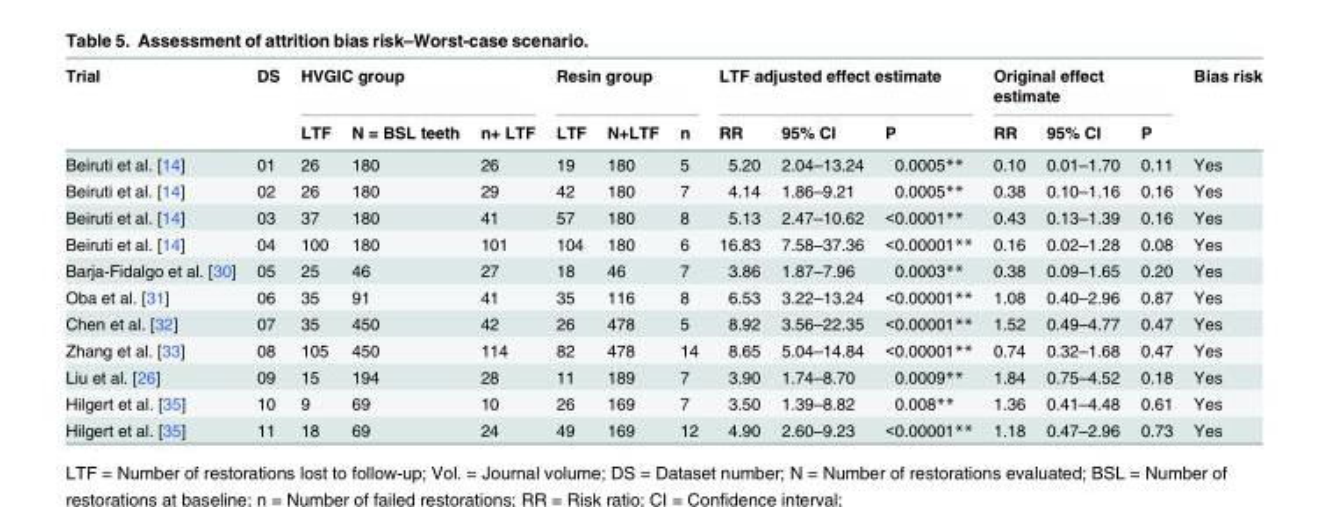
<table><thead><tr><td rowspan="2">Trial</td><td rowspan="2">DS</td><td colspan="3">HVGIC group</td><td colspan="3">Resin group</td><td colspan="3">LTF adjusted effect estimate</td><td colspan="3">Original effect estimate</td><td rowspan="2">Bias risk</td></tr><tr><td>LTF</td><td>N = BSL teeth</td><td>n+ LTF</td><td>LTF</td><td>N+LTF</td><td>n</td><td>RR</td><td>95% CI</td><td>P</td><td>RR</td><td>95% CI</td><td>P</td></tr></thead><tbody><tr><td>Beiruti et al. [14]</td><td>01</td><td>26</td><td>180</td><td>26</td><td>19</td><td>180</td><td>5</td><td>5.20</td><td>2.04–13.24</td><td>0.0005**</td><td>0.10</td><td>0.01–1.70</td><td>0.11</td><td>Yes</td></tr><tr><td>Beiruti et al. [14]</td><td>02</td><td>26</td><td>180</td><td>29</td><td>42</td><td>180</td><td>7</td><td>4.14</td><td>1.86–9.21</td><td>0.0005**</td><td>0.38</td><td>0.10–1.16</td><td>0.16</td><td>Yes</td></tr><tr><td>Beiruti et al. [14]</td><td>03</td><td>37</td><td>180</td><td>41</td><td>57</td><td>180</td><td>8</td><td>5.13</td><td>2.47–10.62</td><td>&lt;0.0001**</td><td>0.43</td><td>0.13–1.39</td><td>0.16</td><td>Yes</td></tr><tr><td>Beiruti et al. [14]</td><td>04</td><td>100</td><td>180</td><td>101</td><td>104</td><td>180</td><td>6</td><td>16.83</td><td>7.58–37.36</td><td>&lt;0.00001**</td><td>0.16</td><td>0.02–1.28</td><td>0.08</td><td>Yes</td></tr><tr><td>Barja-Fidalgo et al. [30]</td><td>05</td><td>25</td><td>46</td><td>27</td><td>18</td><td>46</td><td>7</td><td>3.86</td><td>1.87–7.96</td><td>0.0003**</td><td>0.38</td><td>0.09–1.65</td><td>0.20</td><td>Yes</td></tr><tr><td>Oba et al. [31]</td><td>06</td><td>35</td><td>91</td><td>41</td><td>35</td><td>116</td><td>8</td><td>6.53</td><td>3.22–13.24</td><td>&lt;0.00001**</td><td>1.08</td><td>0.40–2.96</td><td>0.87</td><td>Yes</td></tr><tr><td>Chen et al. [32]</td><td>07</td><td>35</td><td>450</td><td>42</td><td>26</td><td>478</td><td>5</td><td>8.92</td><td>3.56–22.35</td><td>&lt;0.00001**</td><td>1.52</td><td>0.49–4.77</td><td>0.47</td><td>Yes</td></tr><tr><td>Zhang et al. [33]</td><td>08</td><td>105</td><td>450</td><td>114</td><td>82</td><td>478</td><td>14</td><td>8.65</td><td>5.04–14.84</td><td>&lt;0.00001**</td><td>0.74</td><td>0.32–1.68</td><td>0.47</td><td>Yes</td></tr><tr><td>Liu et al. [26]</td><td>09</td><td>15</td><td>194</td><td>28</td><td>11</td><td>189</td><td>7</td><td>3.90</td><td>1.74–8.70</td><td>0.0009**</td><td>1.84</td><td>0.75–4.52</td><td>0.18</td><td>Yes</td></tr><tr><td>Hilgert et al. [35]</td><td>10</td><td>9</td><td>69</td><td>10</td><td>26</td><td>169</td><td>7</td><td>3.50</td><td>1.39–8.82</td><td>0.008**</td><td>1.36</td><td>0.41–4.48</td><td>0.61</td><td>Yes</td></tr><tr><td>Hilgert et al. [35]</td><td>11</td><td>18</td><td>69</td><td>24</td><td>49</td><td>169</td><td>12</td><td>4.90</td><td>2.60–9.23</td><td>&lt;0.00001**</td><td>1.18</td><td>0.47–2.96</td><td>0.73</td><td>Yes</td></tr></tbody></table>